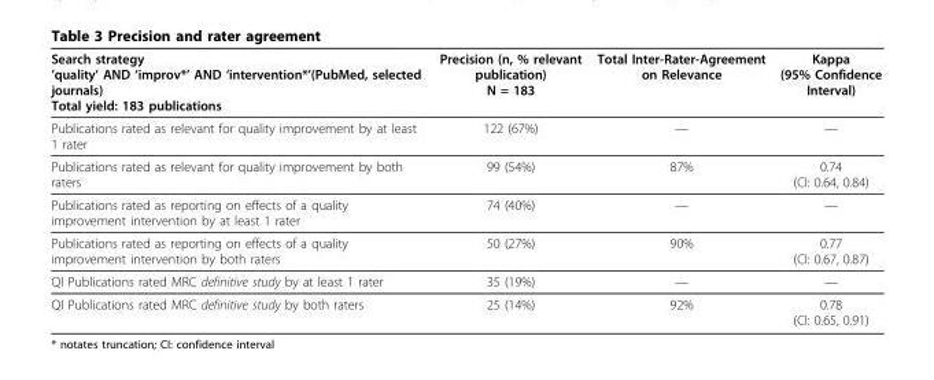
<table><thead><tr><td>Search strategy ’quality’ AND ‘improv*’ AND ‘intervention*’(PubMed, selected journals) Total yield: 183 publications</td><td>Precision (n, % relevant publication) N = 183</td><td>Total Inter-Rater-Agreement on Relevance</td><td>Kappa (95% Confidence Interval)</td></tr></thead><tbody><tr><td>Publications rated as relevant for quality improvement by at least 1 rater</td><td>122 (67%)</td><td>—</td><td>—</td></tr><tr><td>Publications rated as relevant for quality improvement by both raters</td><td>99 (54%)</td><td>87%</td><td>0.74 (CI: 0.64, 0.84)</td></tr><tr><td>Publications rated as reporting on effects of a quality improvement intervention by at least 1 rater</td><td>74 (40%)</td><td>—</td><td>—</td></tr><tr><td>Publications rated as reporting on effects of a quality improvement intervention by both raters</td><td>50 (27%)</td><td>90%</td><td>0.77 (CI: 0.67, 0.87)</td></tr><tr><td>QI Publications rated MRC definitive study by at least 1 rater</td><td>35 (19%)</td><td>—</td><td>—</td></tr><tr><td>QI Publications rated MRC definitive study by both raters</td><td>25 (14%)</td><td>92%</td><td>0.78 (CI: 0.65, 0.91)</td></tr></tbody></table>